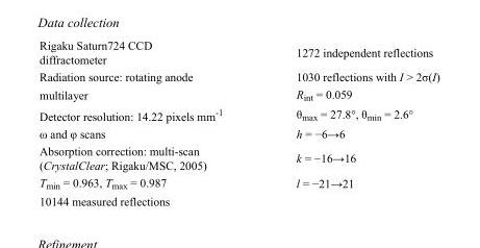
<table><tbody><tr><td>Rigaku Saturn724 CCD diffractometer</td><td>1272 independent reflections</td></tr><tr><td>Radiation source: rotating anode</td><td>1030 reflections with I &gt; 2σ(I)</td></tr><tr><td>multilayer</td><td>R<sub>int</sub> = 0.059</td></tr><tr><td>Detector resolution: 14.22 pixels mm<sup>-1</sup></td><td>θ<sub>max</sub> = 27.8°, θ<sub>min</sub> = 2.6°</td></tr><tr><td>ω and φ scans</td><td>h = −6→6</td></tr><tr><td>Absorption correction: multi-scan (CrystalClear; Rigaku/MSC, 2005)</td><td>k = −16→16</td></tr><tr><td>T<sub>min</sub> = 0.963, T<sub>max</sub> = 0.987</td><td>l = −21→21</td></tr><tr><td>10144 measured reflections</td><td></td></tr></tbody></table>